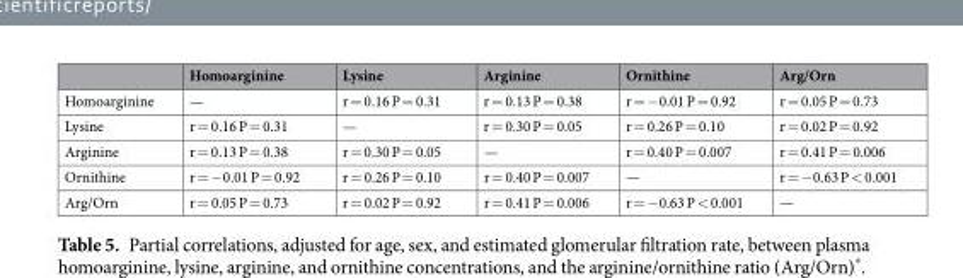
<table><thead><tr><td></td><td>Homoarginine</td><td>Lysine</td><td>Arginine</td><td>Ornithine</td><td>Arg/Orn</td></tr></thead><tbody><tr><td>Homoarginine</td><td>—</td><td>r = 0.16 P = 0.31</td><td>r = 0.13 P = 0.38</td><td>r = −0.01 P = 0.92</td><td>r = 0.05 P = 0.73</td></tr><tr><td>Lysine</td><td>r = 0.16 P = 0.31</td><td>—</td><td>r = 0.30 P = 0.05</td><td>r = 0.26 P = 0.10</td><td>r = 0.02 P = 0.92</td></tr><tr><td>Arginine</td><td>r = 0.13 P = 0.38</td><td>r = 0.30 P = 0.05</td><td>—</td><td>r = 0.40 P = 0.007</td><td>r = 0.41 P = 0.006</td></tr><tr><td>Ornithine</td><td>r = −0.01 P = 0.92</td><td>r = 0.26 P = 0.10</td><td>r = 0.40 P = 0.007</td><td>—</td><td>r = −0.63 P &lt; 0.001</td></tr><tr><td>Arg/Orn</td><td>r = 0.05 P = 0.73</td><td>r = 0.02 P = 0.92</td><td>r = 0.41 P = 0.006</td><td>r = −0.63 P &lt; 0.001</td><td>—</td></tr></tbody></table>